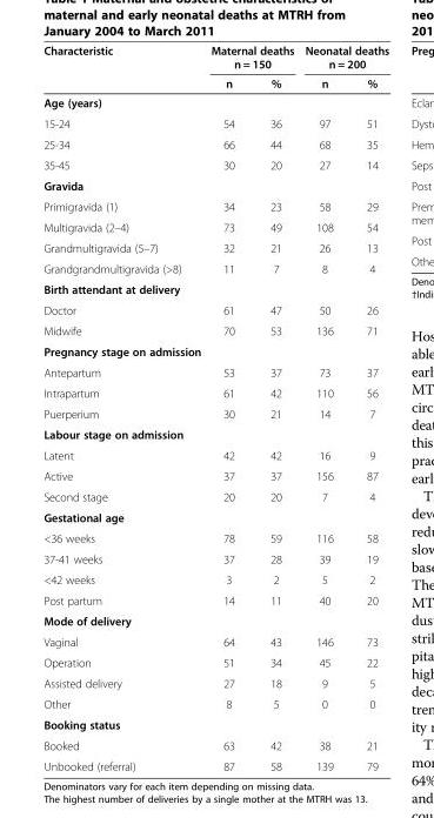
<table><thead><tr><td rowspan="2">Characteristic</td><td colspan="2">Maternal deaths n = 150</td><td colspan="2">Neonatal deaths n = 200</td></tr><tr><td>n</td><td>%</td><td>n</td><td>%</td></tr></thead><tbody><tr><td colspan="5">Age (years)</td></tr><tr><td>15-24</td><td>54</td><td>36</td><td>97</td><td>51</td></tr><tr><td>25-34</td><td>66</td><td>44</td><td>68</td><td>35</td></tr><tr><td>35-45</td><td>30</td><td>20</td><td>27</td><td>14</td></tr><tr><td colspan="5">Gravida</td></tr><tr><td>Primigravida (1)</td><td>34</td><td>23</td><td>58</td><td>29</td></tr><tr><td>Multigravida (2–4)</td><td>73</td><td>49</td><td>108</td><td>54</td></tr><tr><td>Grandmultigravida (5–7)</td><td>32</td><td>21</td><td>26</td><td>13</td></tr><tr><td>Grandgrandmultigravida (&gt;8)</td><td>11</td><td>7</td><td>8</td><td>4</td></tr><tr><td colspan="5">Birth attendant at delivery</td></tr><tr><td>Doctor</td><td>61</td><td>47</td><td>50</td><td>26</td></tr><tr><td>Midwife</td><td>70</td><td>53</td><td>136</td><td>71</td></tr><tr><td colspan="5">Pregnancy stage on admission</td></tr><tr><td>Antepartum</td><td>53</td><td>37</td><td>73</td><td>37</td></tr><tr><td>Intrapartum</td><td>61</td><td>42</td><td>110</td><td>56</td></tr><tr><td>Puerperium</td><td>30</td><td>21</td><td>14</td><td>7</td></tr><tr><td colspan="5">Labour stage on admission</td></tr><tr><td>Latent</td><td>42</td><td>42</td><td>16</td><td>9</td></tr><tr><td>Active</td><td>37</td><td>37</td><td>156</td><td>87</td></tr><tr><td>Second stage</td><td>20</td><td>20</td><td>7</td><td>4</td></tr><tr><td colspan="5">Gestational age</td></tr><tr><td>&lt;36 weeks</td><td>78</td><td>59</td><td>116</td><td>58</td></tr><tr><td>37-41 weeks</td><td>37</td><td>28</td><td>39</td><td>19</td></tr><tr><td>&lt;42 weeks</td><td>3</td><td>2</td><td>5</td><td>2</td></tr><tr><td>Post partum</td><td>14</td><td>11</td><td>40</td><td>20</td></tr><tr><td colspan="5">Mode of delivery</td></tr><tr><td>Vaginal</td><td>64</td><td>43</td><td>146</td><td>73</td></tr><tr><td>Operation</td><td>51</td><td>34</td><td>45</td><td>22</td></tr><tr><td>Assisted delivery</td><td>27</td><td>18</td><td>9</td><td>5</td></tr><tr><td>Other</td><td>8</td><td>5</td><td>0</td><td>0</td></tr><tr><td colspan="5">Booking status</td></tr><tr><td>Booked</td><td>63</td><td>42</td><td>38</td><td>21</td></tr><tr><td>Unbooked (referral)</td><td>87</td><td>58</td><td>139</td><td>79</td></tr></tbody></table>